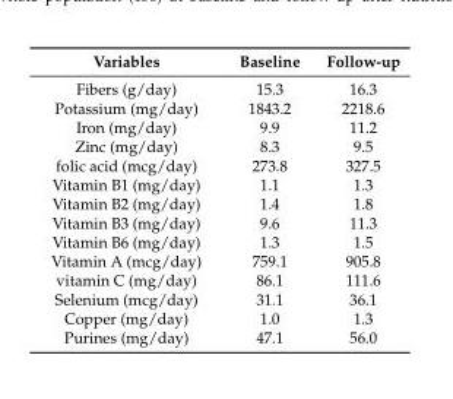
<table><thead><tr><td>Variables</td><td>Baseline</td><td>Follow-up</td></tr></thead><tbody><tr><td>Fibers (g/day)</td><td>15.3</td><td>16.3</td></tr><tr><td>Potassium (mg/day)</td><td>1843.2</td><td>2218.6</td></tr><tr><td>Iron (mg/day)</td><td>9.9</td><td>11.2</td></tr><tr><td>Zinc (mg/day)</td><td>8.3</td><td>9.5</td></tr><tr><td>folic acid (mcg/day)</td><td>273.8</td><td>327.5</td></tr><tr><td>Vitamin B1 (mg/day)</td><td>1.1</td><td>1.3</td></tr><tr><td>Vitamin B2 (mg/day)</td><td>1.4</td><td>1.8</td></tr><tr><td>Vitamin B3 (mg/day)</td><td>9.6</td><td>11.3</td></tr><tr><td>Vitamin B6 (mg/day)</td><td>1.3</td><td>1.5</td></tr><tr><td>Vitamin A (mcg/day)</td><td>759.1</td><td>905.8</td></tr><tr><td>vitamin C (mg/day)</td><td>86.1</td><td>111.6</td></tr><tr><td>Selenium (mcg/day)</td><td>31.1</td><td>36.1</td></tr><tr><td>Copper (mg/day)</td><td>1.0</td><td>1.3</td></tr><tr><td>Purines (mg/day)</td><td>47.1</td><td>56.0</td></tr></tbody></table>